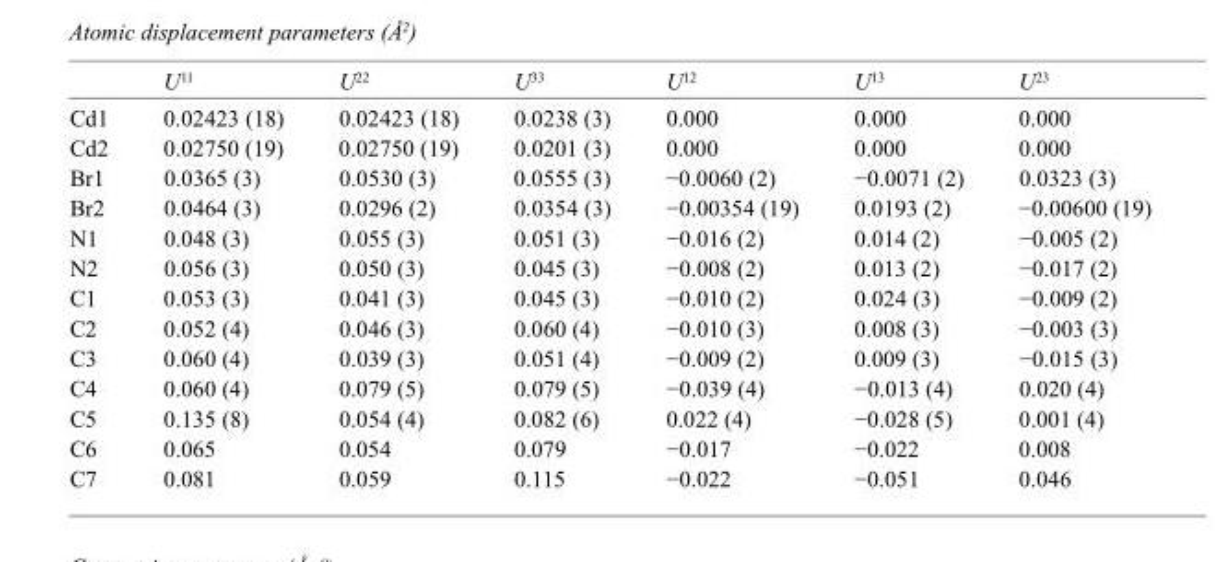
<table><thead><tr><td></td><td>U<sup>11</sup></td><td>U<sup>22</sup></td><td>U<sup>33</sup></td><td>U<sup>12</sup></td><td>U<sup>13</sup></td><td>U<sup>23</sup></td></tr></thead><tbody><tr><td>Cd1</td><td>0.02423 (18)</td><td>0.02423 (18)</td><td>0.0238 (3)</td><td>0.000</td><td>0.000</td><td>0.000</td></tr><tr><td>Cd2</td><td>0.02750 (19)</td><td>0.02750 (19)</td><td>0.0201 (3)</td><td>0.000</td><td>0.000</td><td>0.000</td></tr><tr><td>Br1</td><td>0.0365 (3)</td><td>0.0530 (3)</td><td>0.0555 (3)</td><td>−0.0060 (2)</td><td>−0.0071 (2)</td><td>0.0323 (3)</td></tr><tr><td>Br2</td><td>0.0464 (3)</td><td>0.0296 (2)</td><td>0.0354 (3)</td><td>−0.00354 (19)</td><td>0.0193 (2)</td><td>−0.00600 (19)</td></tr><tr><td>N1</td><td>0.048 (3)</td><td>0.055 (3)</td><td>0.051 (3)</td><td>−0.016 (2)</td><td>0.014 (2)</td><td>−0.005 (2)</td></tr><tr><td>N2</td><td>0.056 (3)</td><td>0.050 (3)</td><td>0.045 (3)</td><td>−0.008 (2)</td><td>0.013 (2)</td><td>−0.017 (2)</td></tr><tr><td>C1</td><td>0.053 (3)</td><td>0.041 (3)</td><td>0.045 (3)</td><td>−0.010 (2)</td><td>0.024 (3)</td><td>−0.009 (2)</td></tr><tr><td>C2</td><td>0.052 (4)</td><td>0.046 (3)</td><td>0.060 (4)</td><td>−0.010 (3)</td><td>0.008 (3)</td><td>−0.003 (3)</td></tr><tr><td>C3</td><td>0.060 (4)</td><td>0.039 (3)</td><td>0.051 (4)</td><td>−0.009 (2)</td><td>0.009 (3)</td><td>−0.015 (3)</td></tr><tr><td>C4</td><td>0.060 (4)</td><td>0.079 (5)</td><td>0.079 (5)</td><td>−0.039 (4)</td><td>−0.013 (4)</td><td>0.020 (4)</td></tr><tr><td>C5</td><td>0.135 (8)</td><td>0.054 (4)</td><td>0.082 (6)</td><td>0.022 (4)</td><td>−0.028 (5)</td><td>0.001 (4)</td></tr><tr><td>C6</td><td>0.065</td><td>0.054</td><td>0.079</td><td>−0.017</td><td>−0.022</td><td>0.008</td></tr><tr><td>C7</td><td>0.081</td><td>0.059</td><td>0.115</td><td>−0.022</td><td>−0.051</td><td>0.046</td></tr></tbody></table>